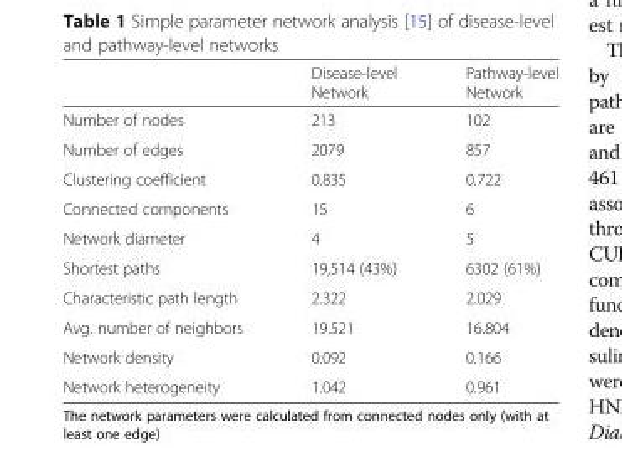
<table><thead><tr><td></td><td>Disease-level Network</td><td>Pathway-level Network</td></tr></thead><tbody><tr><td>Number of nodes</td><td>213</td><td>102</td></tr><tr><td>Number of edges</td><td>2079</td><td>857</td></tr><tr><td>Clustering coefficient</td><td>0.835</td><td>0.722</td></tr><tr><td>Connected components</td><td>15</td><td>6</td></tr><tr><td>Network diameter</td><td>4</td><td>5</td></tr><tr><td>Shortest paths</td><td>19,514 (43%)</td><td>6302 (61%)</td></tr><tr><td>Characteristic path length</td><td>2.322</td><td>2.029</td></tr><tr><td>Avg. number of neighbors</td><td>19.521</td><td>16.804</td></tr><tr><td>Network density</td><td>0.092</td><td>0.166</td></tr><tr><td>Network heterogeneity</td><td>1.042</td><td>0.961</td></tr></tbody></table>